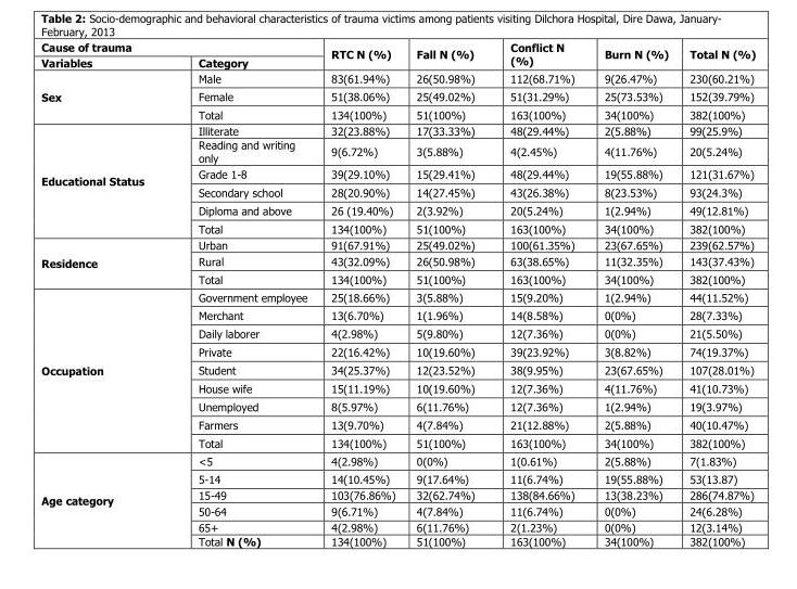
<table><thead><tr><td colspan="2">Cause of trauma</td><td rowspan="2">RTC N (%)</td><td rowspan="2">Fall N (%)</td><td rowspan="2">Conflict N (%)</td><td rowspan="2">Burn N (%)</td><td rowspan="2">Total N (%)</td></tr><tr><td>Variables</td><td>Category</td></tr></thead><tbody><tr><td rowspan="3">Sex</td><td>Male</td><td>83(61.94%)</td><td>26(50.98%)</td><td>112(68.71%)</td><td>9(26.47%)</td><td>230(60.21%)</td></tr><tr><td>Female</td><td>51(38.06%)</td><td>25(49.02%)</td><td>51(31.29%)</td><td>25(73.53%)</td><td>152(39.79%)</td></tr><tr><td>Total</td><td>134(100%)</td><td>51(100%)</td><td>163(100%)</td><td>34(100%)</td><td>382(100%)</td></tr><tr><td rowspan="6">Educational Status</td><td>Illiterate</td><td>32(23.88%)</td><td>17(33.33%)</td><td>48(29.44%)</td><td>2(5.88%)</td><td>99(25.9%)</td></tr><tr><td>Reading and writing only</td><td>9(6.72%)</td><td>3(5.88%)</td><td>4(2.45%)</td><td>4(11.76%)</td><td>20(5.24%)</td></tr><tr><td>Grade 1-8</td><td>39(29.10%)</td><td>15(29.41%)</td><td>48(29.44%)</td><td>19(55.88%)</td><td>121(31.67%)</td></tr><tr><td>Secondary school</td><td>28(20.90%)</td><td>14(27.45%)</td><td>43(26.38%)</td><td>8(23.53%)</td><td>93(24.3%)</td></tr><tr><td>Diploma and above</td><td>26 (19.40%)</td><td>2(3.92%)</td><td>20(5.24%)</td><td>1(2.94%)</td><td>49(12.81%)</td></tr><tr><td>Total</td><td>134(100%)</td><td>51(100%)</td><td>163(100%)</td><td>34(100%)</td><td>382(100%)</td></tr><tr><td rowspan="3">Residence</td><td>Urban</td><td>91(67.91%)</td><td>25(49.02%)</td><td>100(61.35%)</td><td>23(67.65%)</td><td>239(62.57%)</td></tr><tr><td>Rural</td><td>43(32.09%)</td><td>26(50.98%)</td><td>63(38.65%)</td><td>11(32.35%)</td><td>143(37.43%)</td></tr><tr><td>Total</td><td>134(100%)</td><td>51(100%)</td><td>163(100%)</td><td>34(100%)</td><td>382(100%)</td></tr><tr><td rowspan="9">Occupation</td><td>Government employee</td><td>25(18.66%)</td><td>3(5.88%)</td><td>15(9.20%)</td><td>1(2.94%)</td><td>44(11.52%)</td></tr><tr><td>Merchant</td><td>13(6.70%)</td><td>1(1.96%)</td><td>14(8.58%)</td><td>0(0%)</td><td>28(7.33%)</td></tr><tr><td>Daily laborer</td><td>4(2.98%)</td><td>5(9.80%)</td><td>12(7.36%)</td><td>0(0%)</td><td>21(5.50%)</td></tr><tr><td>Private</td><td>22(16.42%)</td><td>10(19.60%)</td><td>39(23.92%)</td><td>3(8.82%)</td><td>74(19.37%)</td></tr><tr><td>Student</td><td>34(25.37%)</td><td>12(23.52%)</td><td>38(9.95%)</td><td>23(67.65%)</td><td>107(28.01%)</td></tr><tr><td>House wife</td><td>15(11.19%)</td><td>10(19.60%)</td><td>12(7.36%)</td><td>4(11.76%)</td><td>41(10.73%)</td></tr><tr><td>Unemployed</td><td>8(5.97%)</td><td>6(11.76%)</td><td>12(7.36%)</td><td>1(2.94%)</td><td>19(3.97%)</td></tr><tr><td>Farmers</td><td>13(9.70%)</td><td>4(7.84%)</td><td>21(12.88%)</td><td>2(5.88%)</td><td>40(10.47%)</td></tr><tr><td>Total</td><td>134(100%)</td><td>51(100%)</td><td>163(100%)</td><td>34(100%)</td><td>382(100%)</td></tr><tr><td rowspan="6">Age category</td><td>&lt;5</td><td>4(2.98%)</td><td>0(0%)</td><td>1(0.61%)</td><td>2(5.88%)</td><td>7(1.83%)</td></tr><tr><td>5-14</td><td>14(10.45%)</td><td>9(17.64%)</td><td>11(6.74%)</td><td>19(55.88%)</td><td>53(13.87)</td></tr><tr><td>15-49</td><td>103(76.86%)</td><td>32(62.74%)</td><td>138(84.66%)</td><td>13(38.23%)</td><td>286(74.87%)</td></tr><tr><td>50-64</td><td>9(6.71%)</td><td>4(7.84%)</td><td>11(6.74%)</td><td>0(0%)</td><td>24(6.28%)</td></tr><tr><td>65+</td><td>4(2.98%)</td><td>6(11.76%)</td><td>2(1.23%)</td><td>0(0%)</td><td>12(3.14%)</td></tr><tr><td>Total N (%)</td><td>134(100%)</td><td>51(100%)</td><td>163(100%)</td><td>34(100%)</td><td>382(100%)</td></tr></tbody></table>